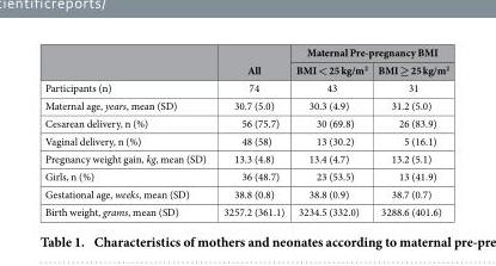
<table><thead><tr><td rowspan="2"></td><td rowspan="2">All</td><td colspan="2">Maternal Pre-pregnancy BMI</td></tr><tr><td>BMI &lt; 25 kg/m<sup>2</sup></td><td>BMI ≥ 25 kg/m<sup>2</sup></td></tr></thead><tbody><tr><td>Participants (n)</td><td>74</td><td>43</td><td>31</td></tr><tr><td>Maternal age, years, mean (SD)</td><td>30.7 (5.0)</td><td>30.3 (4.9)</td><td>31.2 (5.0)</td></tr><tr><td>Cesarean delivery, n (%)</td><td>56 (75.7)</td><td>30 (69.8)</td><td>26 (83.9)</td></tr><tr><td>Vaginal delivery, n (%)</td><td>48 (58)</td><td>13 (30.2)</td><td>5 (16.1)</td></tr><tr><td>Pregnancy weight gain, kg, mean (SD)</td><td>13.3 (4.8)</td><td>13.4 (4.7)</td><td>13.2 (5.1)</td></tr><tr><td>Girls, n (%)</td><td>36 (48.7)</td><td>23 (53.5)</td><td>13 (41.9)</td></tr><tr><td>Gestational age, weeks, mean (SD)</td><td>38.8 (0.8)</td><td>38.8 (0.9)</td><td>38.7 (0.7)</td></tr><tr><td>Birth weight, grams, mean (SD)</td><td>3257.2 (361.1)</td><td>3234.5 (332.0)</td><td>3288.6 (401.6)</td></tr></tbody></table>